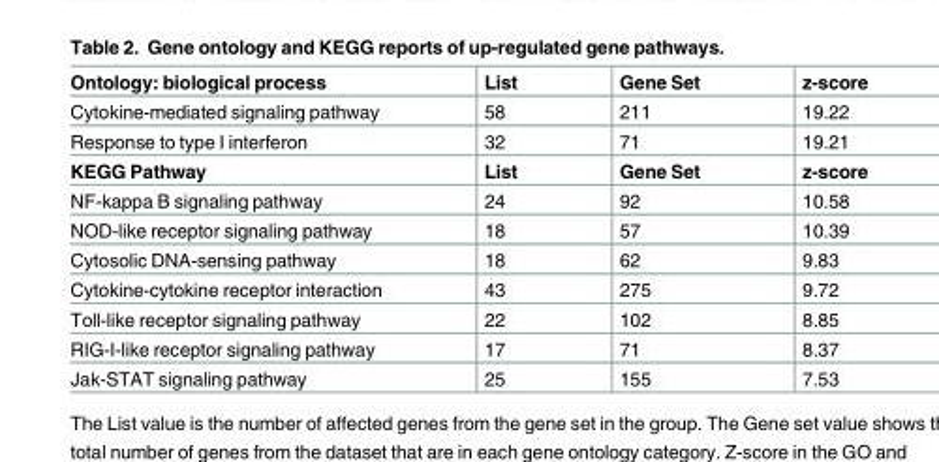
<table><tbody><tr><td>Ontology: biological process</td><td>List</td><td>Gene Set</td><td>z-score</td></tr><tr><td>Cytokine-mediated signaling pathway</td><td>58</td><td>211</td><td>19.22</td></tr><tr><td>Response to type I interferon</td><td>32</td><td>71</td><td>19.21</td></tr><tr><td>KEGG Pathway</td><td>List</td><td>Gene Set</td><td>z-score</td></tr><tr><td>NF-kappa B signaling pathway</td><td>24</td><td>92</td><td>10.58</td></tr><tr><td>NOD-like receptor signaling pathway</td><td>18</td><td>57</td><td>10.39</td></tr><tr><td>Cytosolic DNA-sensing pathway</td><td>18</td><td>62</td><td>9.83</td></tr><tr><td>Cytokine-cytokine receptor interaction</td><td>43</td><td>275</td><td>9.72</td></tr><tr><td>Toll-like receptor signaling pathway</td><td>22</td><td>102</td><td>8.85</td></tr><tr><td>RIG-I-like receptor signaling pathway</td><td>17</td><td>71</td><td>8.37</td></tr><tr><td>Jak-STAT signaling pathway</td><td>25</td><td>155</td><td>7.53</td></tr></tbody></table>